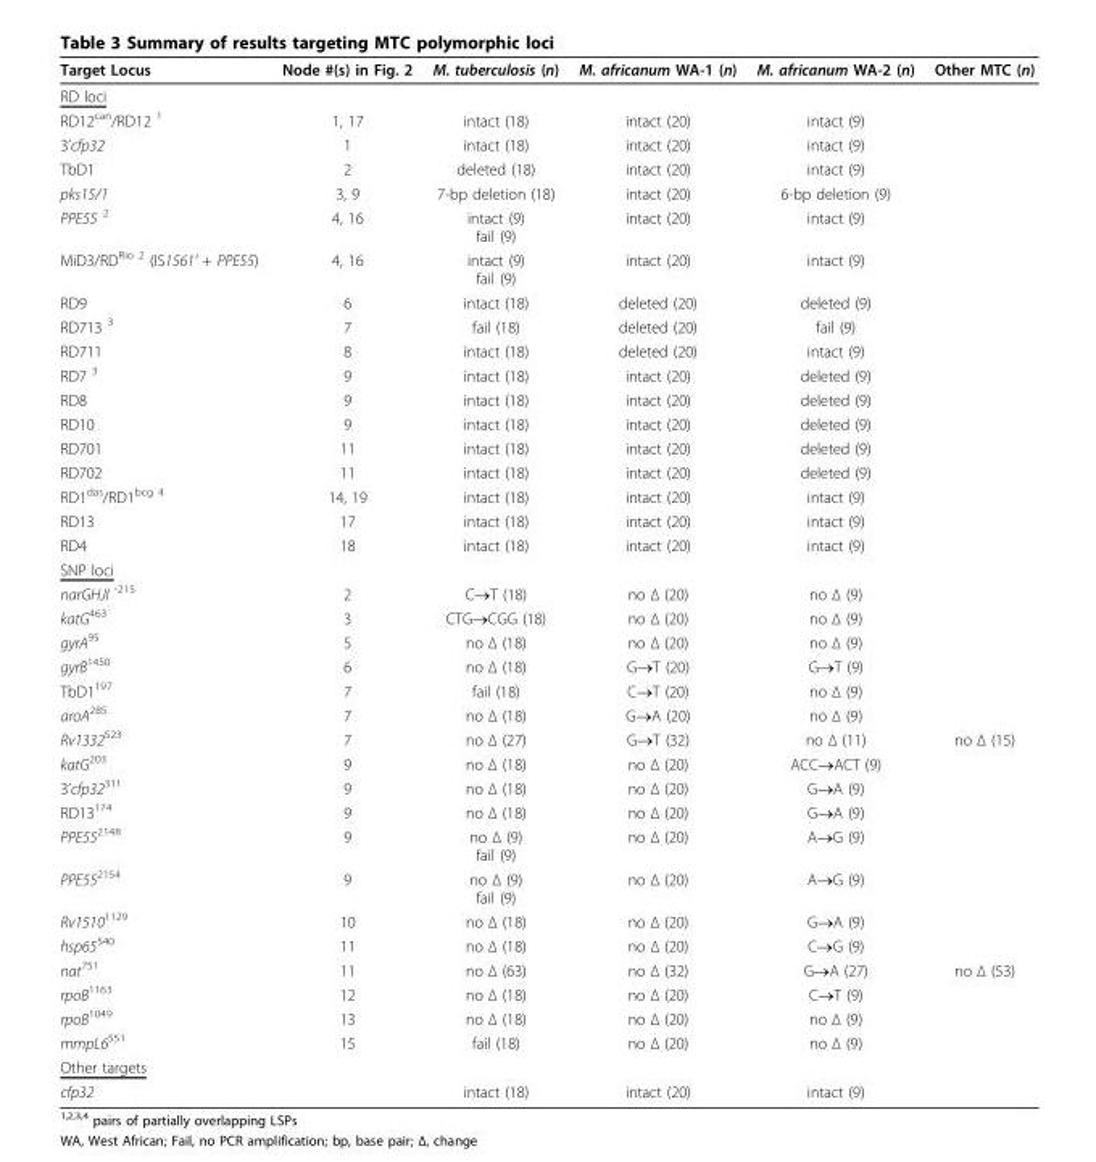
<table><thead><tr><td>Target Locus</td><td>Node #(s) in Fig. 2</td><td>M. tuberculosis (n)</td><td>M. africanum WA-1 (n)</td><td>M. africanum WA-2 (n)</td><td>Other MTC (n)</td></tr></thead><tbody><tr><td colspan="6">RD loci</td></tr><tr><td>RD12<sup>can</sup>/RD12 <sup>1</sup></td><td>1, 17</td><td>intact (18)</td><td>intact (20)</td><td>intact (9)</td><td></td></tr><tr><td>3’cfp32</td><td>1</td><td>intact (18)</td><td>intact (20)</td><td>intact (9)</td><td></td></tr><tr><td>TbD1</td><td>2</td><td>deleted (18)</td><td>intact (20)</td><td>intact (9)</td><td></td></tr><tr><td>pks15/1</td><td>3, 9</td><td>7-bp deletion (18)</td><td>intact (20)</td><td>6-bp deletion (9)</td><td></td></tr><tr><td>PPE55 <sup>2</sup></td><td>4, 16</td><td>intact (9) fail (9)</td><td>intact (20)</td><td>intact (9)</td><td></td></tr><tr><td>MiD3/RD<sup>Rio 2</sup> (IS1561’ + PPE55)</td><td>4, 16</td><td>intact (9) fail (9)</td><td>intact (20)</td><td>intact (9)</td><td></td></tr><tr><td>RD9</td><td>6</td><td>intact (18)</td><td>deleted (20)</td><td>deleted (9)</td><td></td></tr><tr><td>RD713 <sup>3</sup></td><td>7</td><td>fail (18)</td><td>deleted (20)</td><td>fail (9)</td><td></td></tr><tr><td>RD711</td><td>8</td><td>intact (18)</td><td>deleted (20)</td><td>intact (9)</td><td></td></tr><tr><td>RD7 <sup>3</sup></td><td>9</td><td>intact (18)</td><td>intact (20)</td><td>deleted (9)</td><td></td></tr><tr><td>RD8</td><td>9</td><td>intact (18)</td><td>intact (20)</td><td>deleted (9)</td><td></td></tr><tr><td>RD10</td><td>9</td><td>intact (18)</td><td>intact (20)</td><td>deleted (9)</td><td></td></tr><tr><td>RD701</td><td>11</td><td>intact (18)</td><td>intact (20)</td><td>deleted (9)</td><td></td></tr><tr><td>RD702</td><td>11</td><td>intact (18)</td><td>intact (20)</td><td>deleted (9)</td><td></td></tr><tr><td>RD1<sup>das</sup>/RD1<sup>bcg 4</sup></td><td>14, 19</td><td>intact (18)</td><td>intact (20)</td><td>intact (9)</td><td></td></tr><tr><td>RD13</td><td>17</td><td>intact (18)</td><td>intact (20)</td><td>intact (9)</td><td></td></tr><tr><td>RD4</td><td>18</td><td>intact (18)</td><td>intact (20)</td><td>intact (9)</td><td></td></tr><tr><td colspan="6">SNP loci</td></tr><tr><td>narGHJI <sup>-215</sup></td><td>2</td><td>C→T (18)</td><td>no Δ (20)</td><td>no Δ (9)</td><td></td></tr><tr><td>katG<sup>463</sup></td><td>3</td><td>CTG→CGG (18)</td><td>no Δ (20)</td><td>no Δ (9)</td><td></td></tr><tr><td>gyrA<sup>95</sup></td><td>5</td><td>no Δ (18)</td><td>no Δ (20)</td><td>no Δ (9)</td><td></td></tr><tr><td>gyrB<sup>1450</sup></td><td>6</td><td>no Δ (18)</td><td>G→T (20)</td><td>G→T (9)</td><td></td></tr><tr><td>TbD1<sup>197</sup></td><td>7</td><td>fail (18)</td><td>C→T (20)</td><td>no Δ (9)</td><td></td></tr><tr><td>aroA<sup>285</sup></td><td>7</td><td>no Δ (18)</td><td>G→A (20)</td><td>no Δ (9)</td><td></td></tr><tr><td>Rv1332<sup>523</sup></td><td>7</td><td>no Δ (27)</td><td>G→T (32)</td><td>no Δ (11)</td><td>no Δ (15)</td></tr><tr><td>katG<sup>203</sup></td><td>9</td><td>no Δ (18)</td><td>no Δ (20)</td><td>ACC→ACT (9)</td><td></td></tr><tr><td>3’cfp32<sup>311</sup></td><td>9</td><td>no Δ (18)</td><td>no Δ (20)</td><td>G→A (9)</td><td></td></tr><tr><td>RD13<sup>174</sup></td><td>9</td><td>no Δ (18)</td><td>no Δ (20)</td><td>G→A (9)</td><td></td></tr><tr><td>PPE55<sup>2148</sup></td><td>9</td><td>no Δ (9) fail (9)</td><td>no Δ (20)</td><td>A→G (9)</td><td></td></tr><tr><td>PPE55<sup>2154</sup></td><td>9</td><td>no Δ (9) fail (9)</td><td>no Δ (20)</td><td>A→G (9)</td><td></td></tr><tr><td>Rv1510<sup>1129</sup></td><td>10</td><td>no Δ (18)</td><td>no Δ (20)</td><td>G→A (9)</td><td></td></tr><tr><td>hsp65<sup>540</sup></td><td>11</td><td>no Δ (18)</td><td>no Δ (20)</td><td>C→G (9)</td><td></td></tr><tr><td>nat<sup>751</sup></td><td>11</td><td>no Δ (63)</td><td>no Δ (32)</td><td>G→A (27)</td><td>no Δ (53)</td></tr><tr><td>rpoB<sup>1163</sup></td><td>12</td><td>no Δ (18)</td><td>no Δ (20)</td><td>C→T (9)</td><td></td></tr><tr><td>rpoB<sup>1049</sup></td><td>13</td><td>no Δ (18)</td><td>no Δ (20)</td><td>no Δ (9)</td><td></td></tr><tr><td>mmpL6<sup>551</sup></td><td>15</td><td>fail (18)</td><td>no Δ (20)</td><td>no Δ (9)</td><td></td></tr><tr><td colspan="6">Other targets</td></tr><tr><td>cfp32</td><td></td><td>intact (18)</td><td>intact (20)</td><td>intact (9)</td><td></td></tr></tbody></table>